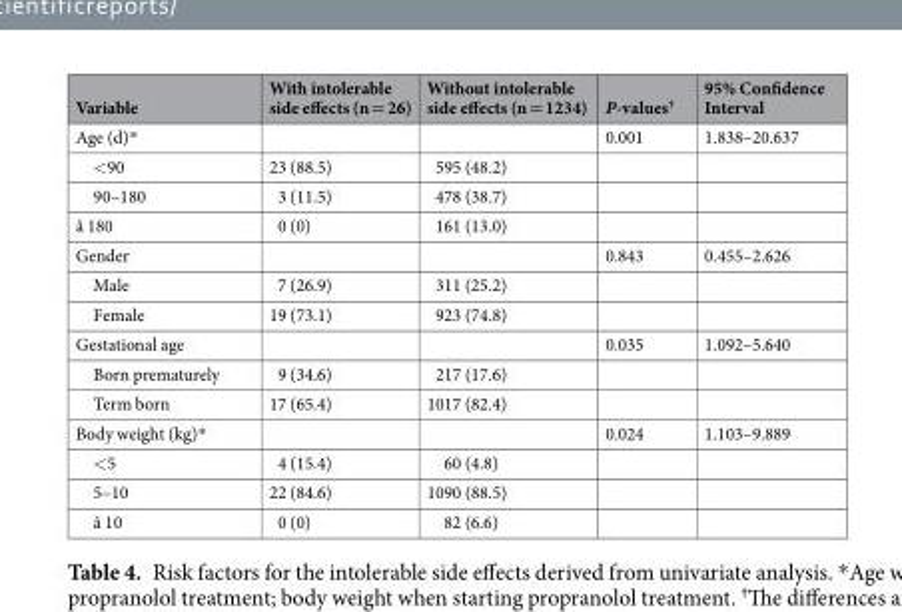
<table><thead><tr><td>Variable</td><td>With intolerable side effects (n = 26)</td><td>Without intolerable side effects (n = 1234)</td><td>P-values<sup>†</sup></td><td>95% Confidence Interval</td></tr></thead><tbody><tr><td>Age (d)*</td><td></td><td></td><td>0.001</td><td>1.838–20.637</td></tr><tr><td>&lt;90</td><td>23 (88.5)</td><td>595 (48.2)</td><td></td><td></td></tr><tr><td>90–180</td><td>3 (11.5)</td><td>478 (38.7)</td><td></td><td></td></tr><tr><td>å 180</td><td>0 (0)</td><td>161 (13.0)</td><td></td><td></td></tr><tr><td>Gender</td><td></td><td></td><td>0.843</td><td>0.455–2.626</td></tr><tr><td>Male</td><td>7 (26.9)</td><td>311 (25.2)</td><td></td><td></td></tr><tr><td>Female</td><td>19 (73.1)</td><td>923 (74.8)</td><td></td><td></td></tr><tr><td>Gestational age</td><td></td><td></td><td>0.035</td><td>1.092–5.640</td></tr><tr><td>Born prematurely</td><td>9 (34.6)</td><td>217 (17.6)</td><td></td><td></td></tr><tr><td>Term born</td><td>17 (65.4)</td><td>1017 (82.4)</td><td></td><td></td></tr><tr><td>Body weight (kg)*</td><td></td><td></td><td>0.024</td><td>1.103–9.889</td></tr><tr><td>&lt;5</td><td>4 (15.4)</td><td>60 (4.8)</td><td></td><td></td></tr><tr><td>5–10</td><td>22 (84.6)</td><td>1090 (88.5)</td><td></td><td></td></tr><tr><td>å 10</td><td>0 (0)</td><td>82 (6.6)</td><td></td><td></td></tr></tbody></table>